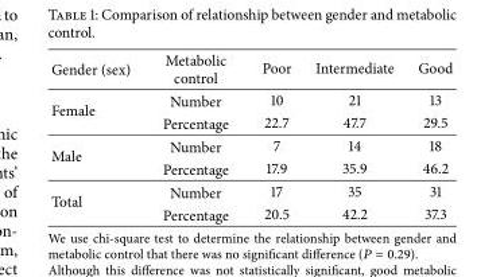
<table><thead><tr><td>Gender (sex)</td><td>Metabolic control</td><td>Poor</td><td>Intermediate</td><td>Good</td></tr></thead><tbody><tr><td rowspan="2">Female</td><td>Number</td><td>10</td><td>21</td><td>13</td></tr><tr><td>Percentage</td><td>22.7</td><td>47.7</td><td>29.5</td></tr><tr><td rowspan="2">Male</td><td>Number</td><td>7</td><td>14</td><td>18</td></tr><tr><td>Percentage</td><td>17.9</td><td>35.9</td><td>46.2</td></tr><tr><td rowspan="2">Total</td><td>Number</td><td>17</td><td>35</td><td>31</td></tr><tr><td>Percentage</td><td>20.5</td><td>42.2</td><td>37.3</td></tr></tbody></table>